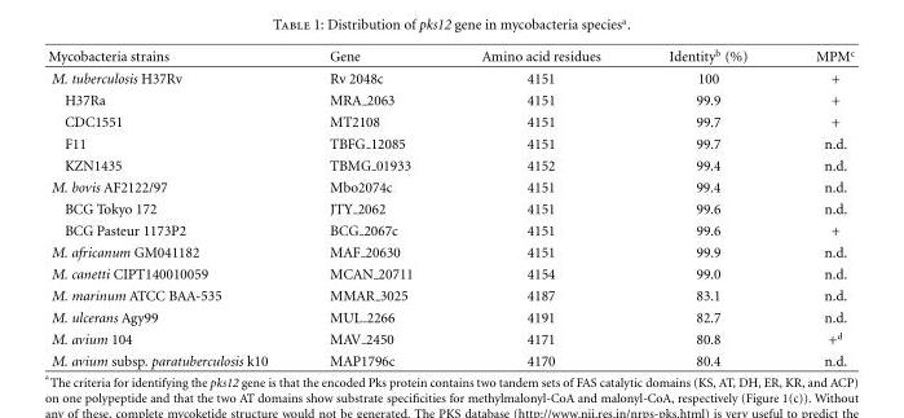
<table><thead><tr><td>Mycobacteria strains</td><td>Gene</td><td>Amino acid residues</td><td>Identity<sup>b</sup> (%)</td><td>MPM<sup>c</sup></td></tr></thead><tbody><tr><td>M. tuberculosis H37Rv</td><td>Rv 2048c</td><td>4151</td><td>100</td><td>+</td></tr><tr><td>H37Ra</td><td>MRA 2063</td><td>4151</td><td>99.9</td><td>+</td></tr><tr><td>CDC1551</td><td>MT2108</td><td>4151</td><td>99.7</td><td>+</td></tr><tr><td>F11</td><td>TBFG 12085</td><td>4151</td><td>99.7</td><td>n.d.</td></tr><tr><td>KZN1435</td><td>TBMG 01933</td><td>4152</td><td>99.4</td><td>n.d.</td></tr><tr><td>M. bovis AF2122/97</td><td>Mbo2074c</td><td>4151</td><td>99.4</td><td>n.d.</td></tr><tr><td>BCG Tokyo 172</td><td>JTY 2062</td><td>4151</td><td>99.6</td><td>n.d.</td></tr><tr><td>BCG Pasteur 1173P2</td><td>BCG 2067c</td><td>4151</td><td>99.6</td><td>+</td></tr><tr><td>M. africanum GM041182</td><td>MAF 20630</td><td>4151</td><td>99.9</td><td>n.d.</td></tr><tr><td>M. canetti CIPT140010059</td><td>MCAN 20711</td><td>4154</td><td>99.0</td><td>n.d.</td></tr><tr><td>M. marinum ATCC BAA-535</td><td>MMAR 3025</td><td>4187</td><td>83.1</td><td>n.d.</td></tr><tr><td>M. ulcerans Agy99</td><td>MUL 2266</td><td>4191</td><td>82.7</td><td>n.d.</td></tr><tr><td>M. avium 104</td><td>MAV 2450</td><td>4171</td><td>80.8</td><td>+<sup>d</sup></td></tr><tr><td>M. avium subsp. paratuberculosis k10</td><td>MAP1796c</td><td>4170</td><td>80.4</td><td>n.d.</td></tr></tbody></table>